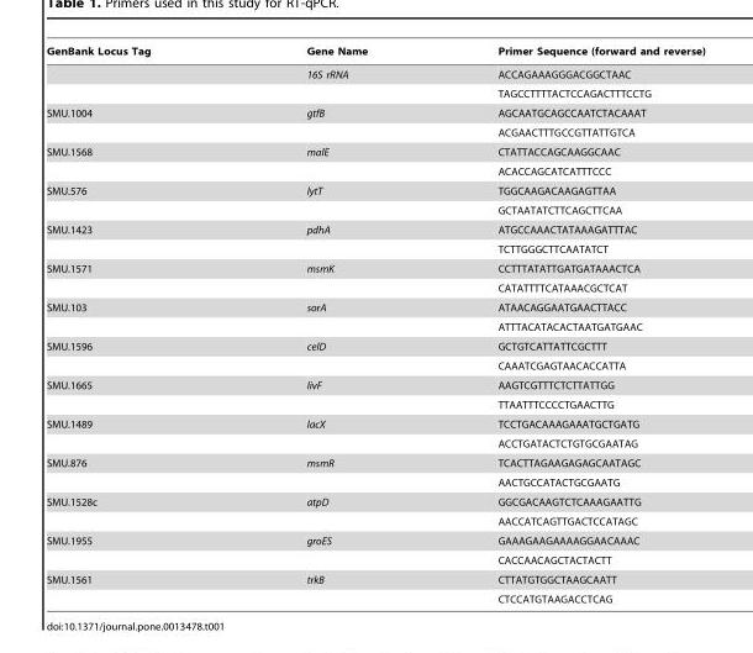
<table><thead><tr><td>GenBank Locus Tag</td><td>Gene Name</td><td>Primer Sequence (forward and reverse)</td></tr></thead><tbody><tr><td></td><td>16S rRNA</td><td>ACCAGAAAGGGACGGCTAAC</td></tr><tr><td></td><td></td><td>TAGCCTTTTACTCCAGACTTTCCTG</td></tr><tr><td rowspan="2">SMU.1004</td><td>gtfB</td><td>AGCAATGCAGCCAATCTACAAAT</td></tr><tr><td></td><td>ACGAACTTTGCCGTTATTGTCA</td></tr><tr><td rowspan="2">SMU.1568</td><td>malE</td><td>CTATTACCAGCAAGGCAAC</td></tr><tr><td></td><td>ACACCAGCATCATTTCCC</td></tr><tr><td rowspan="2">SMU.576</td><td>lytT</td><td>TGGCAAGACAAGAGTTAA</td></tr><tr><td></td><td>GCTAATATCTTCAGCTTCAA</td></tr><tr><td rowspan="2">SMU.1423</td><td>pdhA</td><td>ATGCCAAACTATAAAGATTTAC</td></tr><tr><td></td><td>TCTTGGGCTTCAATATCT</td></tr><tr><td rowspan="2">SMU.1571</td><td>msmK</td><td>CCTTTATATTGATGATAAACTCA</td></tr><tr><td></td><td>CATATTTTCATAAACGCTCAT</td></tr><tr><td rowspan="2">SMU.103</td><td>sorA</td><td>ATAACAGGAATGAACTTACC</td></tr><tr><td></td><td>ATTTACATACACTAATGATGAAC</td></tr><tr><td rowspan="2">SMU.1596</td><td>celD</td><td>GCTGTCATTATTCGCTTT</td></tr><tr><td></td><td>CAAATCGAGTAACACCATTA</td></tr><tr><td rowspan="2">SMU.1665</td><td>livF</td><td>AAGTCGTTTCTCTTATTGG</td></tr><tr><td></td><td>TTAATTTCCCCTGAACTTG</td></tr><tr><td rowspan="2">SMU.1489</td><td>lacX</td><td>TCCTGACAAAGAAATGCTGATG</td></tr><tr><td></td><td>ACCTGATACTCTGTGCGAATAG</td></tr><tr><td rowspan="2">SMU.876</td><td>msmR</td><td>TCACTTAGAAGAGAGCAATAGC</td></tr><tr><td></td><td>AACTGCCATACTGCGAATG</td></tr><tr><td rowspan="2">SMU.1528c</td><td>atpD</td><td>GGCGACAAGTCTCAAAGAATTG</td></tr><tr><td></td><td>AACCATCAGTTGACTCCATAGC</td></tr><tr><td rowspan="2">SMU.1955</td><td>groES</td><td>GAAAGAAGAAAAGGAACAAAC</td></tr><tr><td></td><td>CACCAACAGCTACTACTT</td></tr><tr><td rowspan="2">SMU.1561</td><td>trkB</td><td>CTTATGTGGCTAAGCAATT</td></tr><tr><td></td><td>CTCCATGTAAGACCTCAG</td></tr></tbody></table>